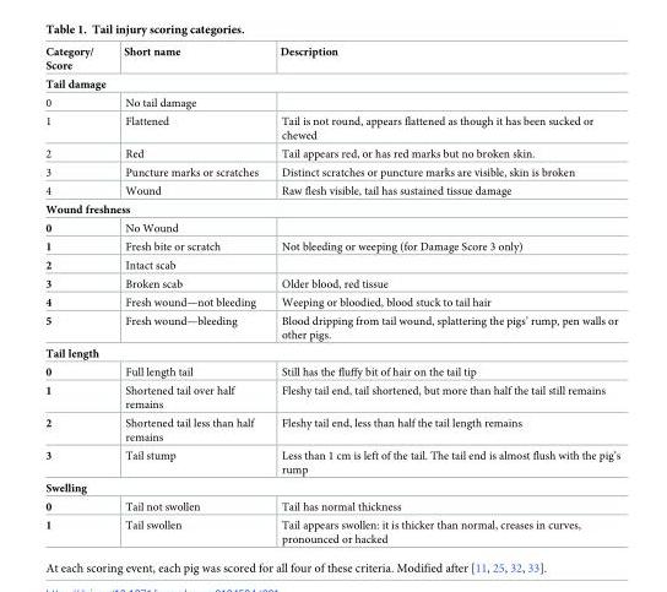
<table><thead><tr><td>Category/ Score</td><td>Short name</td><td>Description</td></tr></thead><tbody><tr><td colspan="3">Tail damage</td></tr><tr><td>0</td><td>No tail damage</td><td></td></tr><tr><td>1</td><td>Flattened</td><td>Tail is not round, appears flattened as though it has been sucked or chewed</td></tr><tr><td>2</td><td>Red</td><td>Tail appears red, or has red marks but no broken skin.</td></tr><tr><td>3</td><td>Puncture marks or scratches</td><td>Distinct scratches or puncture marks are visible, skin is broken</td></tr><tr><td>4</td><td>Wound</td><td>Raw flesh visible, tail has sustained tissue damage</td></tr><tr><td colspan="3">Wound freshness</td></tr><tr><td>0</td><td>No Wound</td><td></td></tr><tr><td>1</td><td>Fresh bite or scratch</td><td>Not bleeding or weeping (for Damage Score 3 only)</td></tr><tr><td>2</td><td>Intact scab</td><td></td></tr><tr><td>3</td><td>Broken scab</td><td>Older blood, red tissue</td></tr><tr><td>4</td><td>Fresh wound—not bleeding</td><td>Weeping or bloodied, blood stuck to tail hair</td></tr><tr><td>5</td><td>Fresh wound—bleeding</td><td>Blood dripping from tail wound, splattering the pigs’ rump, pen walls or other pigs.</td></tr><tr><td colspan="3">Tail length</td></tr><tr><td>0</td><td>Full length tail</td><td>Still has the fluffy bit of hair on the tail tip</td></tr><tr><td>1</td><td>Shortened tail over half remains</td><td>Fleshy tail end, tail shortened, but more than half the tail still remains</td></tr><tr><td>2</td><td>Shortened tail less than half remains</td><td>Fleshy tail end, less than half the tail length remains</td></tr><tr><td>3</td><td>Tail stump</td><td>Less than 1 cm is left of the tail. The tail end is almost flush with the pig’s rump</td></tr><tr><td colspan="3">Swelling</td></tr><tr><td>0</td><td>Tail not swollen</td><td>Tail has normal thickness</td></tr><tr><td>1</td><td>Tail swollen</td><td>Tail appears swollen: it is thicker than normal, creases in curves, pronounced or hacked</td></tr></tbody></table>